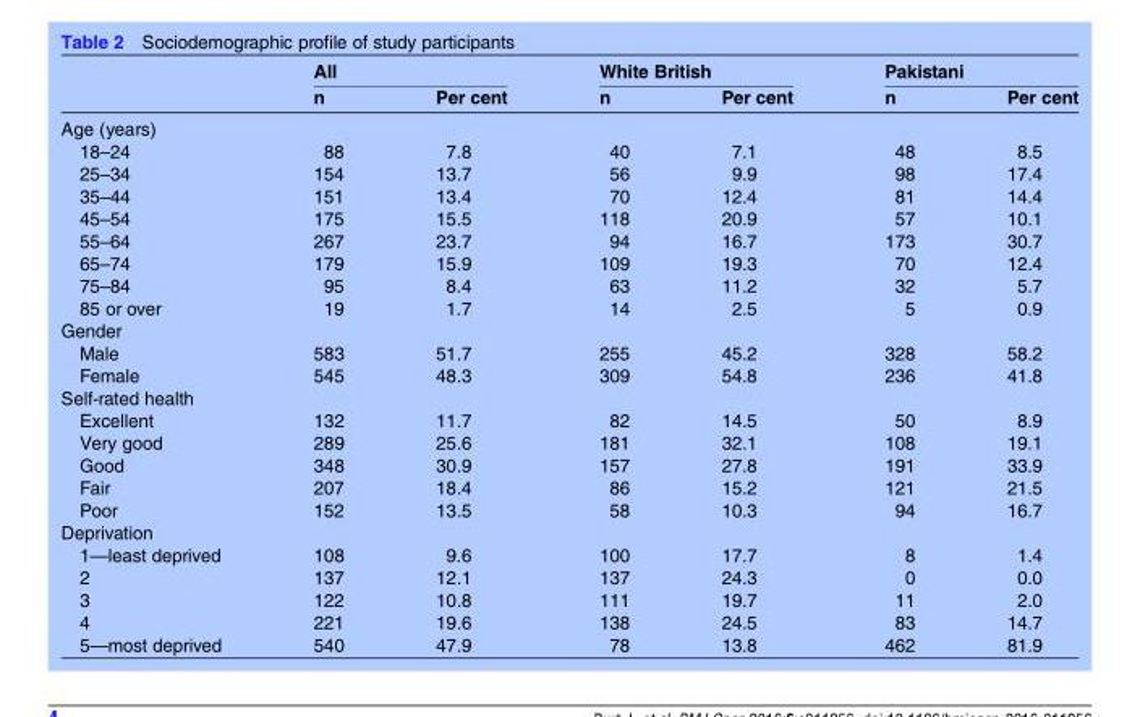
<table><thead><tr><td rowspan="2"></td><td colspan="2">All</td><td colspan="2">White British</td><td colspan="2">Pakistani</td></tr><tr><td>n</td><td>Per cent</td><td>n</td><td>Per cent</td><td>n</td><td>Per cent</td></tr></thead><tbody><tr><td colspan="7">Age (years)</td></tr><tr><td>18–24</td><td>88</td><td>7.8</td><td>40</td><td>7.1</td><td>48</td><td>8.5</td></tr><tr><td>25–34</td><td>154</td><td>13.7</td><td>56</td><td>9.9</td><td>98</td><td>17.4</td></tr><tr><td>35–44</td><td>151</td><td>13.4</td><td>70</td><td>12.4</td><td>81</td><td>14.4</td></tr><tr><td>45–54</td><td>175</td><td>15.5</td><td>118</td><td>20.9</td><td>57</td><td>10.1</td></tr><tr><td>55–64</td><td>267</td><td>23.7</td><td>94</td><td>16.7</td><td>173</td><td>30.7</td></tr><tr><td>65–74</td><td>179</td><td>15.9</td><td>109</td><td>19.3</td><td>70</td><td>12.4</td></tr><tr><td>75–84</td><td>95</td><td>8.4</td><td>63</td><td>11.2</td><td>32</td><td>5.7</td></tr><tr><td>85 or over</td><td>19</td><td>1.7</td><td>14</td><td>2.5</td><td>5</td><td>0.9</td></tr><tr><td colspan="7">Gender</td></tr><tr><td>Male</td><td>583</td><td>51.7</td><td>255</td><td>45.2</td><td>328</td><td>58.2</td></tr><tr><td>Female</td><td>545</td><td>48.3</td><td>309</td><td>54.8</td><td>236</td><td>41.8</td></tr><tr><td colspan="7">Self-rated health</td></tr><tr><td>Excellent</td><td>132</td><td>11.7</td><td>82</td><td>14.5</td><td>50</td><td>8.9</td></tr><tr><td>Very good</td><td>289</td><td>25.6</td><td>181</td><td>32.1</td><td>108</td><td>19.1</td></tr><tr><td>Good</td><td>348</td><td>30.9</td><td>157</td><td>27.8</td><td>191</td><td>33.9</td></tr><tr><td>Fair</td><td>207</td><td>18.4</td><td>86</td><td>15.2</td><td>121</td><td>21.5</td></tr><tr><td>Poor</td><td>152</td><td>13.5</td><td>58</td><td>10.3</td><td>94</td><td>16.7</td></tr><tr><td colspan="7">Deprivation</td></tr><tr><td>1—least deprived</td><td>108</td><td>9.6</td><td>100</td><td>17.7</td><td>8</td><td>1.4</td></tr><tr><td>2</td><td>137</td><td>12.1</td><td>137</td><td>24.3</td><td>0</td><td>0.0</td></tr><tr><td>3</td><td>122</td><td>10.8</td><td>111</td><td>19.7</td><td>11</td><td>2.0</td></tr><tr><td>4</td><td>221</td><td>19.6</td><td>138</td><td>24.5</td><td>83</td><td>14.7</td></tr><tr><td>5—most deprived</td><td>540</td><td>47.9</td><td>78</td><td>13.8</td><td>462</td><td>81.9</td></tr></tbody></table>